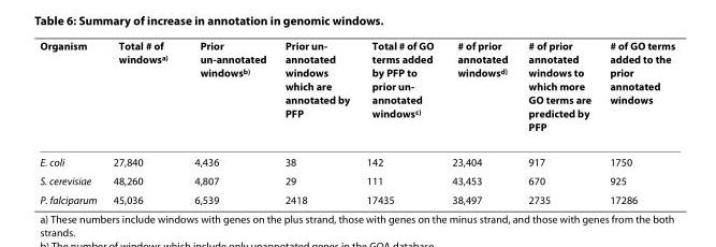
<table><thead><tr><td>Organism</td><td>Total # of windows<sup>a)</sup></td><td>Prior un-annotated windows<sup>b)</sup></td><td>Prior un- annotated windows which are annotated by PFP</td><td>Total # of GO terms added by PFP to prior un- annotated windows<sup>c)</sup></td><td># of prior annotated windows<sup>d)</sup></td><td># of prior annotated windows to which more GO terms are predicted by PFP</td><td># of GO terms added to the prior annotated windows</td></tr></thead><tbody><tr><td>E. coli</td><td>27,840</td><td>4,436</td><td>38</td><td>142</td><td>23,404</td><td>917</td><td>1750</td></tr><tr><td>S. cerevisiae</td><td>48,260</td><td>4,807</td><td>29</td><td>111</td><td>43,453</td><td>670</td><td>925</td></tr><tr><td>P. falciparum</td><td>45,036</td><td>6,539</td><td>2418</td><td>17435</td><td>38,497</td><td>2735</td><td>17286</td></tr></tbody></table>